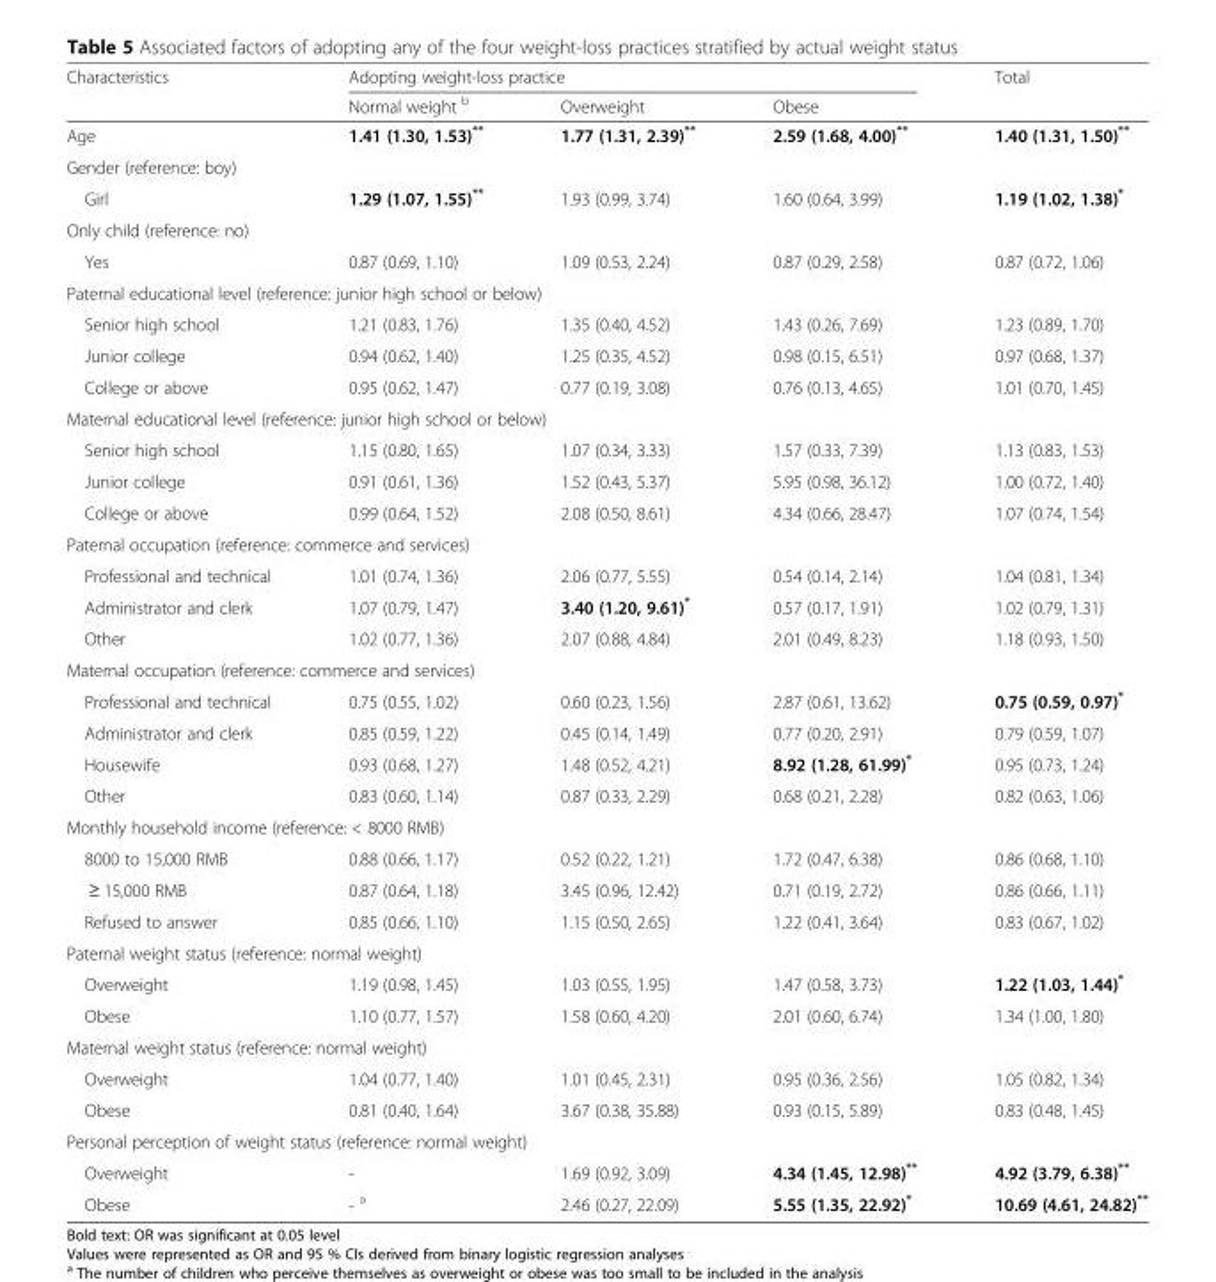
<table><thead><tr><td rowspan="2">Characteristics</td><td colspan="3">Adopting weight-loss practice</td><td rowspan="2">Total</td></tr><tr><td>Normal weight <sup>b</sup></td><td>Overweight</td><td>Obese</td></tr></thead><tbody><tr><td>Age</td><td>1.41 (1.30, 1.53)**</td><td>1.77 (1.31, 2.39)**</td><td>2.59 (1.68, 4.00)**</td><td>1.40 (1.31, 1.50)**</td></tr><tr><td colspan="5">Gender (reference: boy)</td></tr><tr><td>Girl</td><td>1.29 (1.07, 1.55)**</td><td>1.93 (0.99, 3.74)</td><td>1.60 (0.64, 3.99)</td><td>1.19 (1.02, 1.38)*</td></tr><tr><td colspan="5">Only child (reference: no)</td></tr><tr><td>Yes</td><td>0.87 (0.69, 1.10)</td><td>1.09 (0.53, 2.24)</td><td>0.87 (0.29, 2.58)</td><td>0.87 (0.72, 1.06)</td></tr><tr><td colspan="5">Paternal educational level (reference: junior high school or below)</td></tr><tr><td>Senior high school</td><td>1.21 (0.83, 1.76)</td><td>1.35 (0.40, 4.52)</td><td>1.43 (0.26, 7.69)</td><td>1.23 (0.89, 1.70)</td></tr><tr><td>Junior college</td><td>0.94 (0.62, 1.40)</td><td>1.25 (0.35, 4.52)</td><td>0.98 (0.15, 6.51)</td><td>0.97 (0.68, 1.37)</td></tr><tr><td>College or above</td><td>0.95 (0.62, 1.47)</td><td>0.77 (0.19, 3.08)</td><td>0.76 (0.13, 4.65)</td><td>1.01 (0.70, 1.45)</td></tr><tr><td colspan="5">Maternal educational level (reference: junior high school or below)</td></tr><tr><td>Senior high school</td><td>1.15 (0.80, 1.65)</td><td>1.07 (0.34, 3.33)</td><td>1.57 (0.33, 7.39)</td><td>1.13 (0.83, 1.53)</td></tr><tr><td>Junior college</td><td>0.91 (0.61, 1.36)</td><td>1.52 (0.43, 5.37)</td><td>5.95 (0.98, 36.12)</td><td>1.00 (0.72, 1.40)</td></tr><tr><td>College or above</td><td>0.99 (0.64, 1.52)</td><td>2.08 (0.50, 8.61)</td><td>4.34 (0.66, 28.47)</td><td>1.07 (0.74, 1.54)</td></tr><tr><td colspan="5">Paternal occupation (reference: commerce and services)</td></tr><tr><td>Professional and technical</td><td>1.01 (0.74, 1.36)</td><td>2.06 (0.77, 5.55)</td><td>0.54 (0.14, 2.14)</td><td>1.04 (0.81, 1.34)</td></tr><tr><td>Administrator and clerk</td><td>1.07 (0.79, 1.47)</td><td>3.40 (1.20, 9.61)*</td><td>0.57 (0.17, 1.91)</td><td>1.02 (0.79, 1.31)</td></tr><tr><td>Other</td><td>1.02 (0.77, 1.36)</td><td>2.07 (0.88, 4.84)</td><td>2.01 (0.49, 8.23)</td><td>1.18 (0.93, 1.50)</td></tr><tr><td colspan="5">Maternal occupation (reference: commerce and services)</td></tr><tr><td>Professional and technical</td><td>0.75 (0.55, 1.02)</td><td>0.60 (0.23, 1.56)</td><td>2.87 (0.61, 13.62)</td><td>0.75 (0.59, 0.97)*</td></tr><tr><td>Administrator and clerk</td><td>0.85 (0.59, 1.22)</td><td>0.45 (0.14, 1.49)</td><td>0.77 (0.20, 2.91)</td><td>0.79 (0.59, 1.07)</td></tr><tr><td>Housewife</td><td>0.93 (0.68, 1.27)</td><td>1.48 (0.52, 4.21)</td><td>8.92 (1.28, 61.99)*</td><td>0.95 (0.73, 1.24)</td></tr><tr><td>Other</td><td>0.83 (0.60, 1.14)</td><td>0.87 (0.33, 2.29)</td><td>0.68 (0.21, 2.28)</td><td>0.82 (0.63, 1.06)</td></tr><tr><td colspan="5">Monthly household income (reference: &lt; 8000 RMB)</td></tr><tr><td>8000 to 15,000 RMB</td><td>0.88 (0.66, 1.17)</td><td>0.52 (0.22, 1.21)</td><td>1.72 (0.47, 6.38)</td><td>0.86 (0.68, 1.10)</td></tr><tr><td>≥ 15,000 RMB</td><td>0.87 (0.64, 1.18)</td><td>3.45 (0.96, 12.42)</td><td>0.71 (0.19, 2.72)</td><td>0.86 (0.66, 1.11)</td></tr><tr><td>Refused to answer</td><td>0.85 (0.66, 1.10)</td><td>1.15 (0.50, 2.65)</td><td>1.22 (0.41, 3.64)</td><td>0.83 (0.67, 1.02)</td></tr><tr><td colspan="5">Paternal weight status (reference: normal weight)</td></tr><tr><td>Overweight</td><td>1.19 (0.98, 1.45)</td><td>1.03 (0.55, 1.95)</td><td>1.47 (0.58, 3.73)</td><td>1.22 (1.03, 1.44)*</td></tr><tr><td>Obese</td><td>1.10 (0.77, 1.57)</td><td>1.58 (0.60, 4.20)</td><td>2.01 (0.60, 6.74)</td><td>1.34 (1.00, 1.80)</td></tr><tr><td colspan="5">Maternal weight status (reference: normal weight)</td></tr><tr><td>Overweight</td><td>1.04 (0.77, 1.40)</td><td>1.01 (0.45, 2.31)</td><td>0.95 (0.36, 2.56)</td><td>1.05 (0.82, 1.34)</td></tr><tr><td>Obese</td><td>0.81 (0.40, 1.64)</td><td>3.67 (0.38, 35.88)</td><td>0.93 (0.15, 5.89)</td><td>0.83 (0.48, 1.45)</td></tr><tr><td colspan="5">Personal perception of weight status (reference: normal weight)</td></tr><tr><td>Overweight</td><td>-</td><td>1.69 (0.92, 3.09)</td><td>4.34 (1.45, 12.98)**</td><td>4.92 (3.79, 6.38)**</td></tr><tr><td>Obese</td><td>- <sup>a</sup></td><td>2.46 (0.27, 22.09)</td><td>5.55 (1.35, 22.92)*</td><td>10.69 (4.61, 24.82)**</td></tr></tbody></table>